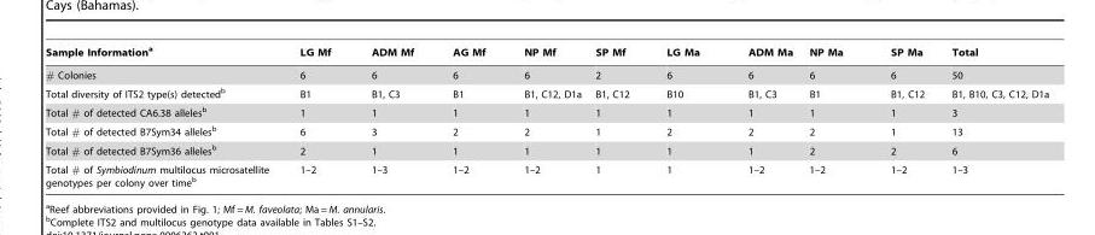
<table><thead><tr><td>Sample Information<sup>a</sup></td><td>LG Mf</td><td>ADM Mf</td><td>AG Mf</td><td>NP Mf</td><td>SP Mf</td><td>LG Ma</td><td>ADM Ma</td><td>NP Ma</td><td>SP Ma</td><td>Total</td></tr></thead><tbody><tr><td># Colonies</td><td>6</td><td>6</td><td>6</td><td>6</td><td>2</td><td>6</td><td>6</td><td>6</td><td>6</td><td>50</td></tr><tr><td>Total diversity of ITS2 type(s) detected<sup>b</sup></td><td>B1</td><td>B1, C3</td><td>B1</td><td>B1, C12, D1a</td><td>B1, C12</td><td>B10</td><td>B1, C3</td><td>B1</td><td>B1, C12</td><td>B1, B10, C3, C12, D1a</td></tr><tr><td>Total # of detected CA6.38 alleles<sup>b</sup></td><td>1</td><td>1</td><td>1</td><td>1</td><td>1</td><td>1</td><td>1</td><td>1</td><td>1</td><td>3</td></tr><tr><td>Total # of detected B7Sym34 alleles<sup>b</sup></td><td>6</td><td>3</td><td>2</td><td>2</td><td>1</td><td>2</td><td>2</td><td>2</td><td>1</td><td>13</td></tr><tr><td>Total # of detected B7Sym36 alleles<sup>b</sup></td><td>2</td><td>1</td><td>1</td><td>1</td><td>1</td><td>1</td><td>1</td><td>2</td><td>2</td><td>6</td></tr><tr><td>Total # of Symbiodinum multilocus microsatellite genotypes per colony over time<sup>b</sup></td><td>1–2</td><td>1–3</td><td>1–2</td><td>1–2</td><td>1</td><td>1</td><td>1–2</td><td>1–2</td><td>1–2</td><td>1–3</td></tr></tbody></table>